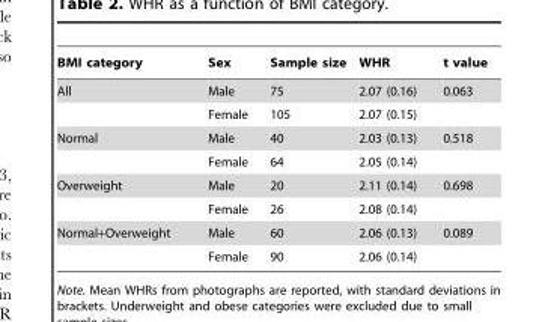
<table><thead><tr><td>BMI category</td><td>Sex</td><td>Sample size</td><td>WHR</td><td>t value</td></tr></thead><tbody><tr><td rowspan="2">All</td><td>Male</td><td>75</td><td>2.07 (0.16)</td><td>0.063</td></tr><tr><td>Female</td><td>105</td><td>2.07 (0.15)</td><td></td></tr><tr><td rowspan="2">Normal</td><td>Male</td><td>40</td><td>2.03 (0.13)</td><td>0.518</td></tr><tr><td>Female</td><td>64</td><td>2.05 (0.14)</td><td></td></tr><tr><td rowspan="2">Overweight</td><td>Male</td><td>20</td><td>2.11 (0.14)</td><td>0.698</td></tr><tr><td>Female</td><td>26</td><td>2.08 (0.14)</td><td></td></tr><tr><td rowspan="2">Normal+Overweight</td><td>Male</td><td>60</td><td>2.06 (0.13)</td><td>0.089</td></tr><tr><td>Female</td><td>90</td><td>2.06 (0.14)</td><td></td></tr></tbody></table>